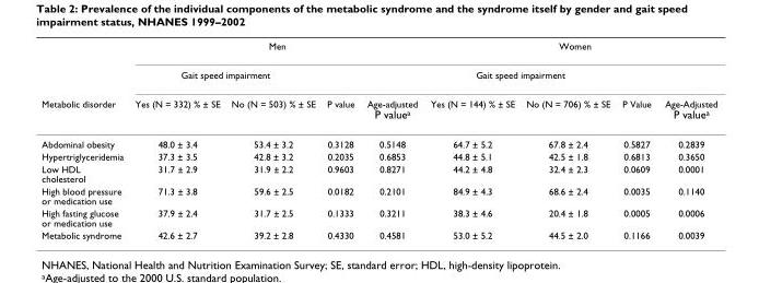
<table><thead><tr><td rowspan="3">Metabolic disorder</td><td colspan="4">Men</td><td colspan="4">Women</td></tr><tr><td colspan="2">Gait speed impairment</td><td rowspan="2">P value</td><td rowspan="2">Age-adjusted P valuea</td><td colspan="2">Gait speed impairment</td><td rowspan="2">P Value</td><td rowspan="2">Age-Adjusted P valuea</td></tr><tr><td>Yes (N = 332) % ± SE</td><td>No (N = 503) % ± SE</td><td>Yes (N = 144) % ± SE</td><td>No (N = 706) % ± SE</td></tr></thead><tbody><tr><td>Abdominal obesity</td><td>48.0 ± 3.4</td><td>53.4 ± 3.2</td><td>0.3128</td><td>0.5148</td><td>64.7 ± 5.2</td><td>67.8 ± 2.4</td><td>0.5827</td><td>0.2839</td></tr><tr><td>Hypertriglyceridemia</td><td>37.3 ± 3.5</td><td>42.8 ± 3.2</td><td>0.2035</td><td>0.6853</td><td>44.8 ± 5.1</td><td>42.5 ± 1.8</td><td>0.6813</td><td>0.3650</td></tr><tr><td>Low HDL cholesterol</td><td>31.7 ± 2.9</td><td>31.9 ± 2.2</td><td>0.9603</td><td>0.8271</td><td>44.2 ± 4.8</td><td>32.4 ± 2.3</td><td>0.0609</td><td>0.0001</td></tr><tr><td>High blood pressure or medication use</td><td>71.3 ± 3.8</td><td>59.6 ± 2.5</td><td>0.0182</td><td>0.2101</td><td>84.9 ± 4.3</td><td>68.6 ± 2.4</td><td>0.0035</td><td>0.1140</td></tr><tr><td>High fasting glucose or medication use</td><td>37.9 ± 2.4</td><td>31.7 ± 2.5</td><td>0.1333</td><td>0.3211</td><td>38.3 ± 4.6</td><td>20.4 ± 1.8</td><td>0.0005</td><td>0.0006</td></tr><tr><td>Metabolic syndrome</td><td>42.6 ± 2.7</td><td>39.2 ± 2.8</td><td>0.4330</td><td>0.4581</td><td>53.0 ± 5.2</td><td>44.5 ± 2.0</td><td>0.1166</td><td>0.0039</td></tr></tbody></table>